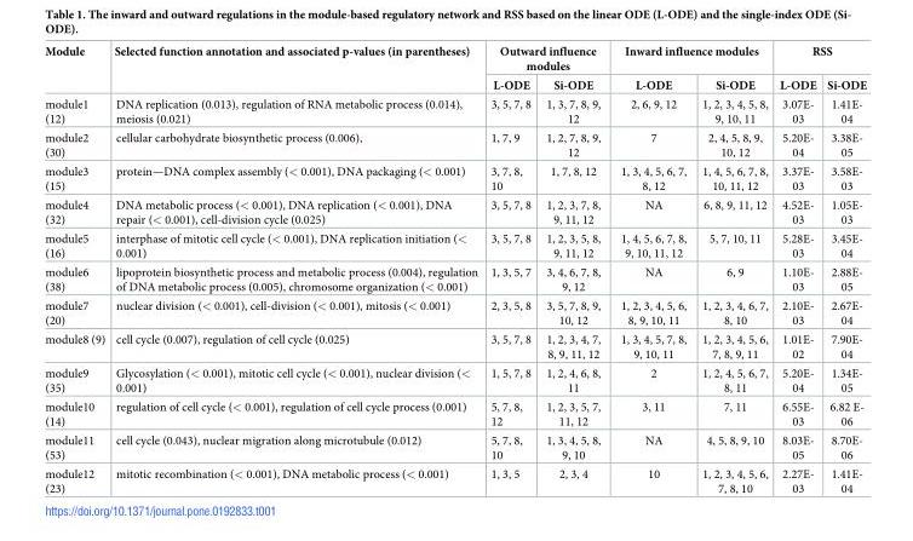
<table><thead><tr><td rowspan="2">Module</td><td rowspan="2">Selected function annotation and associated p-values (in parentheses)</td><td colspan="2">Outward influence modules</td><td colspan="2">Inward influence modules</td><td colspan="2">RSS</td></tr><tr><td>L-ODE</td><td>Si-ODE</td><td>L-ODE</td><td>Si-ODE</td><td>L-ODE</td><td>Si-ODE</td></tr></thead><tbody><tr><td>module1 (12)</td><td>DNA replication (0.013), regulation of RNA metabolic process (0.014), meiosis (0.021)</td><td>3, 5, 7, 8</td><td>1, 3, 7, 8, 9, 12</td><td>2, 6, 9, 12</td><td>1, 2, 3, 4, 5, 8, 9, 10, 11</td><td>3.07E- 03</td><td>1.41E- 04</td></tr><tr><td>module2 (30)</td><td>cellular carbohydrate biosynthetic process (0.006),</td><td>1, 7, 9</td><td>1, 2, 7, 8, 9, 12</td><td>7</td><td>2, 4, 5, 8, 9, 10, 12</td><td>5.20E- 04</td><td>3.38E- 05</td></tr><tr><td>module3 (15)</td><td>protein—DNA complex assembly (&lt; 0.001), DNA packaging (&lt; 0.001)</td><td>3, 7, 8, 10</td><td>1, 7, 8, 12</td><td>1, 3, 4, 5, 6, 7, 8, 12</td><td>1, 4, 5, 6, 7, 8, 10, 11, 12</td><td>3.37E- 03</td><td>3.58E- 03</td></tr><tr><td>module4 (32)</td><td>DNA metabolic process (&lt; 0.001), DNA replication (&lt; 0.001), DNA repair (&lt; 0.001), cell-division cycle (0.025)</td><td>3, 5, 7, 8</td><td>1, 2, 3, 7, 8, 9, 11, 12</td><td>NA</td><td>6, 8, 9, 11, 12</td><td>4.52E- 03</td><td>1.05E- 03</td></tr><tr><td>module5 (16)</td><td>interphase of mitotic cell cycle (&lt; 0.001), DNA replication initiation (&lt; 0.001)</td><td>3, 5, 7, 8</td><td>1, 2, 3, 5, 8, 9, 11, 12</td><td>1, 4, 5, 6, 7, 8, 9, 10, 11, 12</td><td>5, 7, 10, 11</td><td>5.28E- 03</td><td>3.45E- 04</td></tr><tr><td>module6 (38)</td><td>lipoprotein biosynthetic process and metabolic process (0.004), regulation of DNA metabolic process (0.005), chromosome organization (&lt; 0.001)</td><td>1, 3, 5, 7</td><td>3, 4, 6, 7, 8, 9, 12</td><td>NA</td><td>6, 9</td><td>1.10E- 03</td><td>2.88E- 05</td></tr><tr><td>module7 (20)</td><td>nuclear division (&lt; 0.001), cell-division (&lt; 0.001), mitosis (&lt; 0.001)</td><td>2, 3, 5, 8</td><td>3, 5, 7, 8, 9, 10, 12</td><td>1, 2, 3, 4, 5, 6, 8, 9, 10, 11</td><td>1, 2, 3, 4, 6, 7, 8, 10</td><td>2.10E- 03</td><td>2.67E- 04</td></tr><tr><td>module8 (9)</td><td>cell cycle (0.007), regulation of cell cycle (0.025)</td><td>3, 5, 7, 8</td><td>1, 2, 3, 4, 7, 8, 9, 11, 12</td><td>1, 3, 4, 5, 7, 8, 9, 10, 11</td><td>1, 2, 3, 4, 5, 6, 7, 8, 9, 11</td><td>1.01E- 02</td><td>7.90E- 04</td></tr><tr><td>module9 (35)</td><td>Glycosylation (&lt; 0.001), mitotic cell cycle (&lt; 0.001), nuclear division (&lt; 0.001)</td><td>1, 5, 7, 8</td><td>1, 2, 4, 6, 8, 11</td><td>2</td><td>1, 2, 4, 5, 6, 7, 8, 11</td><td>5.20E- 04</td><td>1.34E- 05</td></tr><tr><td>module10 (14)</td><td>regulation of cell cycle (&lt; 0.001), regulation of cell cycle process (0.001)</td><td>5, 7, 8, 12</td><td>1, 2, 3, 5, 7, 11, 12</td><td>3, 11</td><td>7, 11</td><td>6.55E- 03</td><td>6.82 E- 06</td></tr><tr><td>module11 (53)</td><td>cell cycle (0.043), nuclear migration along microtubule (0.012)</td><td>5, 7, 8, 10</td><td>1, 3, 4, 5, 8, 9, 10</td><td>NA</td><td>4, 5, 8, 9, 10</td><td>8.03E- 05</td><td>8.70E- 06</td></tr><tr><td>module12 (23)</td><td>mitotic recombination (&lt; 0.001), DNA metabolic process (&lt; 0.001)</td><td>1, 3, 5</td><td>2, 3, 4</td><td>10</td><td>1, 2, 3, 4, 5, 6, 7, 8, 10</td><td>2.27E- 03</td><td>1.41E- 04</td></tr></tbody></table>